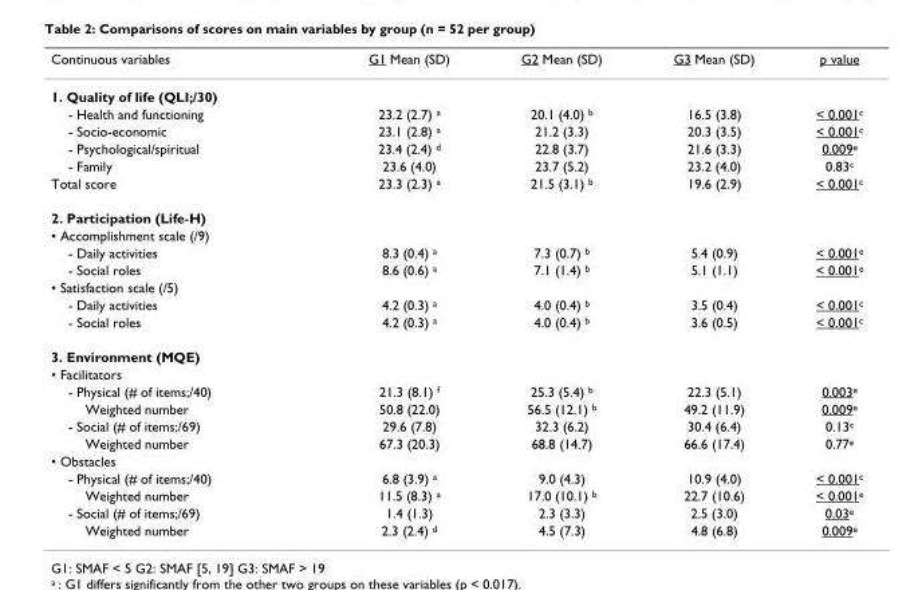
<table><thead><tr><td>Continuous variables</td><td>G1 Mean (SD)</td><td>G2 Mean (SD)</td><td>G3 Mean (SD)</td><td>p value</td></tr></thead><tbody><tr><td colspan="5">1. Quality of life (QLI;/30)</td></tr><tr><td>- Health and functioning</td><td>23.2 (2.7) <sup>a</sup></td><td>20.1 (4.0) <sup>b</sup></td><td>16.5 (3.8)</td><td>&lt; 0.001<sup>c</sup></td></tr><tr><td>- Socio-economic</td><td>23.1 (2.8) <sup>a</sup></td><td>21.2 (3.3)</td><td>20.3 (3.5)</td><td>&lt; 0.001<sup>c</sup></td></tr><tr><td>- Psychological/spiritual</td><td>23.4 (2.4) <sup>d</sup></td><td>22.8 (3.7)</td><td>21.6 (3.3)</td><td>0.009<sup>e</sup></td></tr><tr><td>- Family</td><td>23.6 (4.0)</td><td>23.7 (5.2)</td><td>23.2 (4.0)</td><td>0.83<sup>c</sup></td></tr><tr><td>Total score</td><td>23.3 (2.3) <sup>a</sup></td><td>21.5 (3.1) <sup>b</sup></td><td>19.6 (2.9)</td><td>&lt; 0.001<sup>c</sup></td></tr><tr><td colspan="5">2. Participation (Life-H)</td></tr><tr><td colspan="5">• Accomplishment scale (/9)</td></tr><tr><td>- Daily activities</td><td>8.3 (0.4) <sup>a</sup></td><td>7.3 (0.7) <sup>b</sup></td><td>5.4 (0.9)</td><td>&lt; 0.001<sup>e</sup></td></tr><tr><td>- Social roles</td><td>8.6 (0.6) <sup>a</sup></td><td>7.1 (1.4) <sup>b</sup></td><td>5.1 (1.1)</td><td>&lt; 0.001<sup>e</sup></td></tr><tr><td colspan="5">• Satisfaction scale (/5)</td></tr><tr><td>- Daily activities</td><td>4.2 (0.3) <sup>a</sup></td><td>4.0 (0.4) <sup>b</sup></td><td>3.5 (0.4)</td><td>&lt; 0.001<sup>c</sup></td></tr><tr><td>- Social roles</td><td>4.2 (0.3) <sup>a</sup></td><td>4.0 (0.4) <sup>b</sup></td><td>3.6 (0.5)</td><td>&lt; 0.001<sup>c</sup></td></tr><tr><td colspan="5">3. Environment (MQE)</td></tr><tr><td colspan="5">• Facilitators</td></tr><tr><td>- Physical (# of items;/40)</td><td>21.3 (8.1) <sup>f</sup></td><td>25.3 (5.4) <sup>b</sup></td><td>22.3 (5.1)</td><td>0.003<sup>e</sup></td></tr><tr><td>Weighted number</td><td>50.8 (22.0)</td><td>56.5 (12.1) <sup>b</sup></td><td>49.2 (11.9)</td><td>0.009<sup>e</sup></td></tr><tr><td>- Social (# of items;/69)</td><td>29.6 (7.8)</td><td>32.3 (6.2)</td><td>30.4 (6.4)</td><td>0.13<sup>c</sup></td></tr><tr><td>Weighted number</td><td>67.3 (20.3)</td><td>68.8 (14.7)</td><td>66.6 (17.4)</td><td>0.77<sup>e</sup></td></tr><tr><td colspan="5">• Obstacles</td></tr><tr><td>- Physical (# of items;/40)</td><td>6.8 (3.9) <sup>a</sup></td><td>9.0 (4.3)</td><td>10.9 (4.0)</td><td>&lt; 0.001<sup>c</sup></td></tr><tr><td>Weighted number</td><td>11.5 (8.3) <sup>a</sup></td><td>17.0 (10.1) <sup>b</sup></td><td>22.7 (10.6)</td><td>&lt; 0.001<sup>e</sup></td></tr><tr><td>- Social (# of items;/69)</td><td>1.4 (1.3)</td><td>2.3 (3.3)</td><td>2.5 (3.0)</td><td>0.03<sup>e</sup></td></tr><tr><td>Weighted number</td><td>2.3 (2.4) <sup>d</sup></td><td>4.5 (7.3)</td><td>4.8 (6.8)</td><td>0.009<sup>e</sup></td></tr></tbody></table>